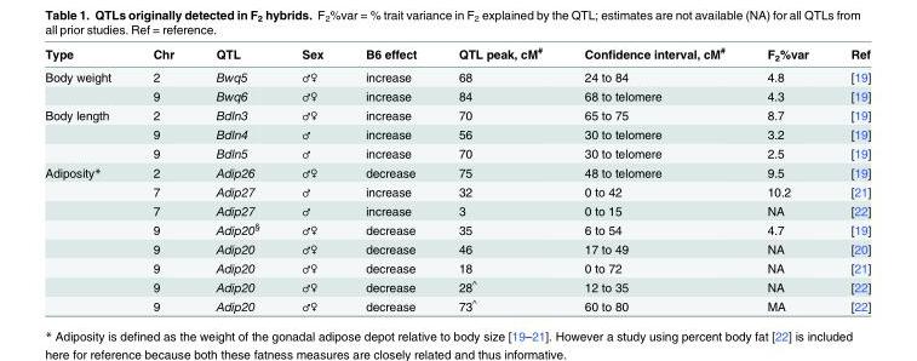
<table><thead><tr><td>Type</td><td>Chr</td><td>QTL</td><td>Sex</td><td>B6 effect</td><td>QTL peak, cM<sup>#</sup></td><td>Confidence interval, cM<sup>#</sup></td><td>F<sub>2</sub>%var</td><td>Ref</td></tr></thead><tbody><tr><td rowspan="2">Body weight</td><td>2</td><td>Bwq5</td><td>♂♀</td><td>increase</td><td>68</td><td>24 to 84</td><td>4.8</td><td>[19]</td></tr><tr><td>9</td><td>Bwq6</td><td>♂♀</td><td>increase</td><td>84</td><td>68 to telomere</td><td>4.3</td><td>[19]</td></tr><tr><td rowspan="3">Body length</td><td>2</td><td>Bdln3</td><td>♂♀</td><td>increase</td><td>70</td><td>65 to 75</td><td>8.7</td><td>[19]</td></tr><tr><td>9</td><td>Bdln4</td><td>♂</td><td>increase</td><td>56</td><td>30 to telomere</td><td>3.2</td><td>[19]</td></tr><tr><td>9</td><td>Bdln5</td><td>♂</td><td>increase</td><td>70</td><td>30 to telomere</td><td>2.5</td><td>[19]</td></tr><tr><td rowspan="8">Adiposity*</td><td>2</td><td>Adip26</td><td>♂♀</td><td>decrease</td><td>75</td><td>48 to telomere</td><td>9.5</td><td>[19]</td></tr><tr><td>7</td><td>Adip27</td><td>♂</td><td>increase</td><td>32</td><td>0 to 42</td><td>10.2</td><td>[21]</td></tr><tr><td>7</td><td>Adip27</td><td>♂</td><td>increase</td><td>3</td><td>0 to 15</td><td>NA</td><td>[22]</td></tr><tr><td>9</td><td>Adip20<sup>§</sup></td><td>♂♀</td><td>decrease</td><td>35</td><td>6 to 54</td><td>4.7</td><td>[19]</td></tr><tr><td>9</td><td>Adip20</td><td>♂♀</td><td>decrease</td><td>46</td><td>17 to 49</td><td>NA</td><td>[20]</td></tr><tr><td>9</td><td>Adip20</td><td>♂♀</td><td>decrease</td><td>18</td><td>0 to 72</td><td>NA</td><td>[21]</td></tr><tr><td>9</td><td>Adip20</td><td>♂♀</td><td>decrease</td><td>28<sup>^</sup></td><td>12 to 35</td><td>NA</td><td>[22]</td></tr><tr><td>9</td><td>Adip20</td><td>♂♀</td><td>decrease</td><td>73<sup>^</sup></td><td>60 to 80</td><td>MA</td><td>[22]</td></tr></tbody></table>